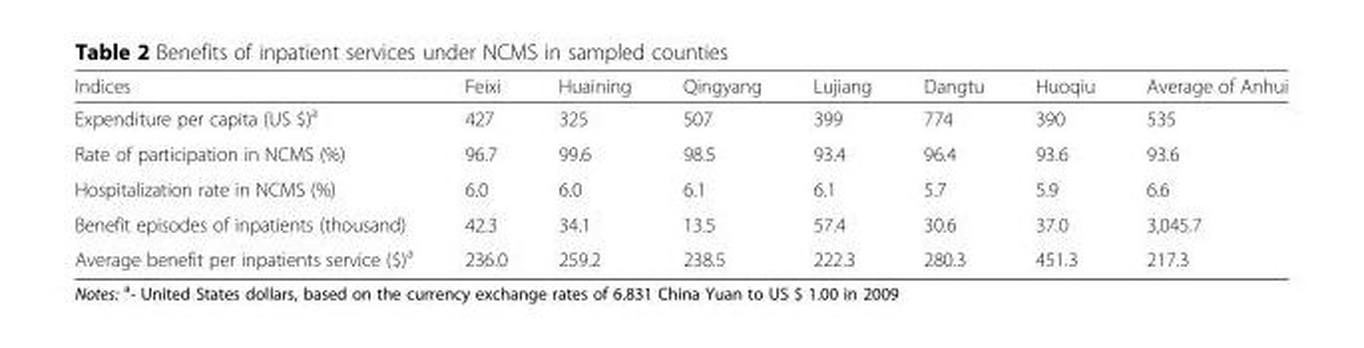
<table><thead><tr><td>Indices</td><td>Feixi</td><td>Huaining</td><td>Qingyang</td><td>Lujiang</td><td>Dangtu</td><td>Huoqiu</td><td>Average of Anhui</td></tr></thead><tbody><tr><td>Expenditure per capita (US $)<sup>a</sup></td><td>427</td><td>325</td><td>507</td><td>399</td><td>774</td><td>390</td><td>535</td></tr><tr><td>Rate of participation in NCMS (%)</td><td>96.7</td><td>99.6</td><td>98.5</td><td>93.4</td><td>96.4</td><td>93.6</td><td>93.6</td></tr><tr><td>Hospitalization rate in NCMS (%)</td><td>6.0</td><td>6.0</td><td>6.1</td><td>6.1</td><td>5.7</td><td>5.9</td><td>6.6</td></tr><tr><td>Benefit episodes of inpatients (thousand)</td><td>42.3</td><td>34.1</td><td>13.5</td><td>57.4</td><td>30.6</td><td>37.0</td><td>3,045.7</td></tr><tr><td>Average benefit per inpatients service ($)<sup>a</sup></td><td>236.0</td><td>259.2</td><td>238.5</td><td>222.3</td><td>280.3</td><td>451.3</td><td>217.3</td></tr></tbody></table>